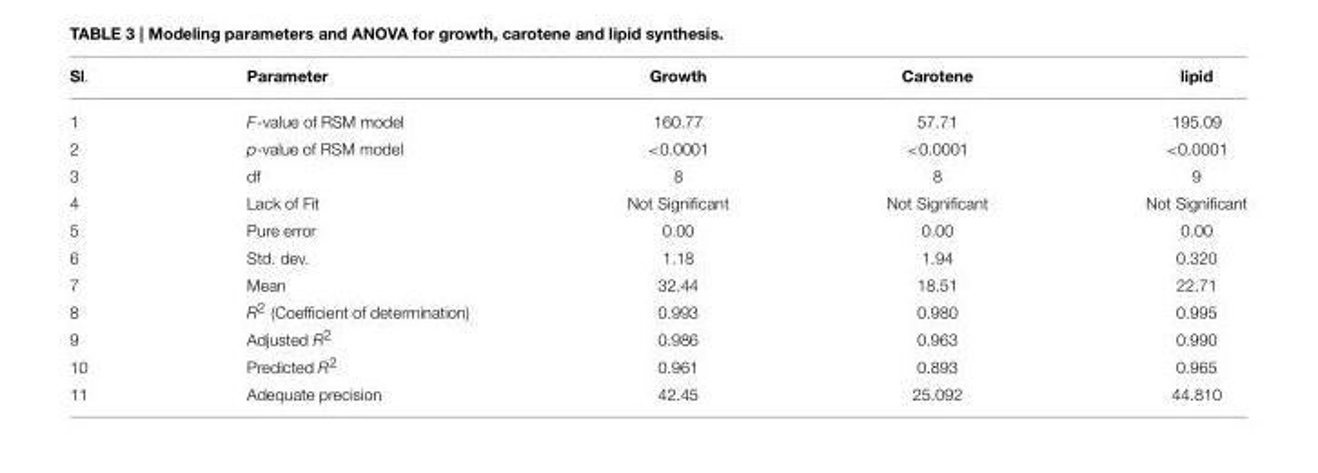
<table><thead><tr><td>Sl.</td><td>Parameter</td><td>Growth</td><td>Carotene</td><td>lipid</td></tr></thead><tbody><tr><td>1</td><td>F-value of RSM model</td><td>160.77</td><td>57.71</td><td>195.09</td></tr><tr><td>2</td><td>p-value of RSM model</td><td>&lt;0.0001</td><td>&lt;0.0001</td><td>&lt;0.0001</td></tr><tr><td>3</td><td>df</td><td>8</td><td>8</td><td>9</td></tr><tr><td>4</td><td>Lack of Fit</td><td>Not Significant</td><td>Not Significant</td><td>Not Significant</td></tr><tr><td>5</td><td>Pure error</td><td>0.00</td><td>0.00</td><td>0.00</td></tr><tr><td>6</td><td>Std. dev.</td><td>1.18</td><td>1.94</td><td>0.320</td></tr><tr><td>7</td><td>Mean</td><td>32.44</td><td>18.51</td><td>22.71</td></tr><tr><td>8</td><td>R<sup>2</sup> (Coefficient of determination)</td><td>0.993</td><td>0.980</td><td>0.995</td></tr><tr><td>9</td><td>Adjusted R<sup>2</sup></td><td>0.986</td><td>0.963</td><td>0.990</td></tr><tr><td>10</td><td>Predicted R<sup>2</sup></td><td>0.961</td><td>0.893</td><td>0.965</td></tr><tr><td>11</td><td>Adequate precision</td><td>42.45</td><td>25.092</td><td>44.810</td></tr></tbody></table>